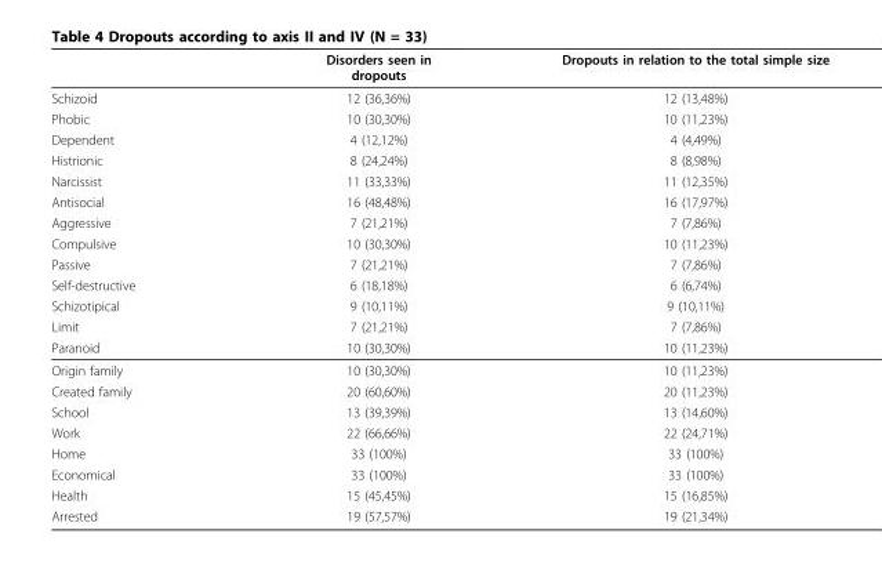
<table><thead><tr><td></td><td>Disorders seen in dropouts</td><td>Dropouts in relation to the total simple size</td></tr></thead><tbody><tr><td>Schizoid</td><td>12 (36,36%)</td><td>12 (13,48%)</td></tr><tr><td>Phobic</td><td>10 (30,30%)</td><td>10 (11,23%)</td></tr><tr><td>Dependent</td><td>4 (12,12%)</td><td>4 (4,49%)</td></tr><tr><td>Histrionic</td><td>8 (24,24%)</td><td>8 (8,98%)</td></tr><tr><td>Narcissist</td><td>11 (33,33%)</td><td>11 (12,35%)</td></tr><tr><td>Antisocial</td><td>16 (48,48%)</td><td>16 (17,97%)</td></tr><tr><td>Aggressive</td><td>7 (21,21%)</td><td>7 (7,86%)</td></tr><tr><td>Compulsive</td><td>10 (30,30%)</td><td>10 (11,23%)</td></tr><tr><td>Passive</td><td>7 (21,21%)</td><td>7 (7,86%)</td></tr><tr><td>Self-destructive</td><td>6 (18,18%)</td><td>6 (6,74%)</td></tr><tr><td>Schizotipical</td><td>9 (10,11%)</td><td>9 (10,11%)</td></tr><tr><td>Limit</td><td>7 (21,21%)</td><td>7 (7,86%)</td></tr><tr><td>Paranoid</td><td>10 (30,30%)</td><td>10 (11,23%)</td></tr><tr><td>Origin family</td><td>10 (30,30%)</td><td>10 (11,23%)</td></tr><tr><td>Created family</td><td>20 (60,60%)</td><td>20 (11,23%)</td></tr><tr><td>School</td><td>13 (39,39%)</td><td>13 (14,60%)</td></tr><tr><td>Work</td><td>22 (66,66%)</td><td>22 (24,71%)</td></tr><tr><td>Home</td><td>33 (100%)</td><td>33 (100%)</td></tr><tr><td>Economical</td><td>33 (100%)</td><td>33 (100%)</td></tr><tr><td>Health</td><td>15 (45,45%)</td><td>15 (16,85%)</td></tr><tr><td>Arrested</td><td>19 (57,57%)</td><td>19 (21,34%)</td></tr></tbody></table>